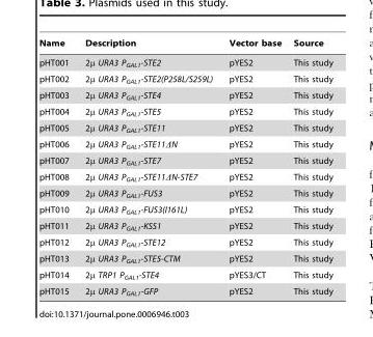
<table><thead><tr><td>Name</td><td>Description</td><td>Vector base</td><td>Source</td></tr></thead><tbody><tr><td>pHT001</td><td>2μ URA3 P<sub>GAL1</sub>-STE2</td><td>pYES2</td><td>This study</td></tr><tr><td>pHT002</td><td>2μ URA3 P<sub>GAL1</sub>-STE2(P258L/S259L)</td><td>pYES2</td><td>This study</td></tr><tr><td>pHT003</td><td>2μ URA3 P<sub>GAL1</sub>-STE4</td><td>pYES2</td><td>This study</td></tr><tr><td>pHT004</td><td>2μ URA3 P<sub>GAL1</sub>-STE5</td><td>pYES2</td><td>This study</td></tr><tr><td>pHT005</td><td>2μ URA3 P<sub>GAL1</sub>-STE11</td><td>pYES2</td><td>This study</td></tr><tr><td>pHT006</td><td>2μ URA3 P<sub>GAL1</sub>-STE11ΔN</td><td>pYES2</td><td>This study</td></tr><tr><td>pHT007</td><td>2μ URA3 P<sub>GAL1</sub>-STE7</td><td>pYES2</td><td>This study</td></tr><tr><td>pHT008</td><td>2μ URA3 P<sub>GAL1</sub>-STE11ΔN-STE7</td><td>pYES2</td><td>This study</td></tr><tr><td>pHT009</td><td>2μ URA3 P<sub>GAL1</sub>-FUS3</td><td>pYES2</td><td>This study</td></tr><tr><td>pHT010</td><td>2μ URA3 P<sub>GAL1</sub>-FUS3(I161L)</td><td>pYES2</td><td>This study</td></tr><tr><td>pHT011</td><td>2μ URA3 P<sub>GAL1</sub>-KSS1</td><td>pYES2</td><td>This study</td></tr><tr><td>pHT012</td><td>2μ URA3 P<sub>GAL1</sub>-STE12</td><td>pYES2</td><td>This study</td></tr><tr><td>pHT013</td><td>2μ URA3 P<sub>GAL1</sub>-STE5-CTM</td><td>pYES2</td><td>This study</td></tr><tr><td>pHT014</td><td>2μ TRP1 P<sub>GAL1</sub>-STE4</td><td>pYES3/CT</td><td>This study</td></tr><tr><td>pHT015</td><td>2μ URA3 P<sub>GAL1</sub>-GFP</td><td>pYES2</td><td>This study</td></tr></tbody></table>